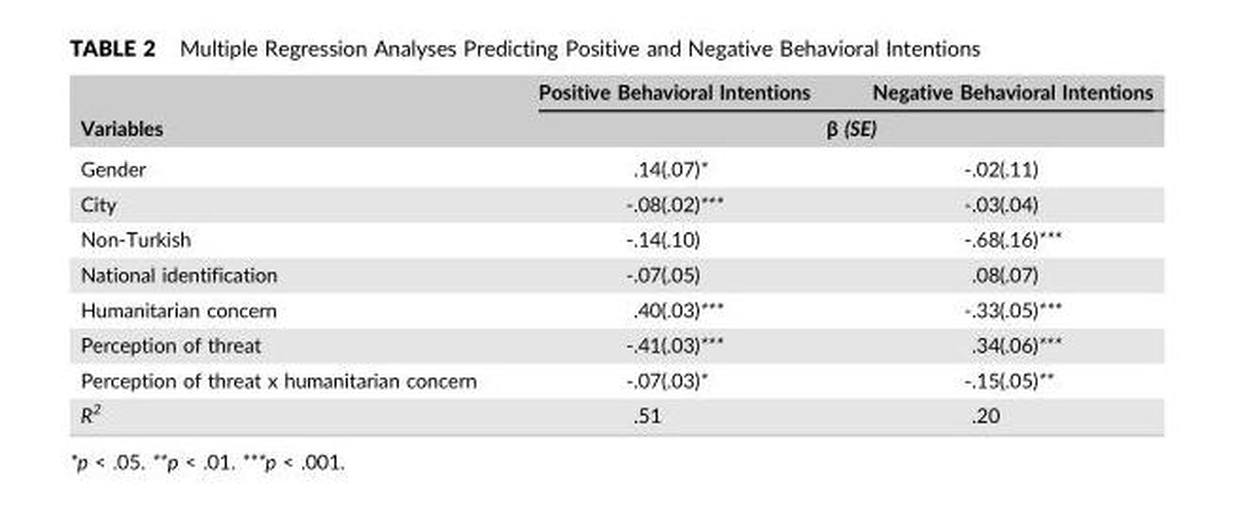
<table><thead><tr><td rowspan="2">Variables</td><td>Positive Behavioral Intentions</td><td>Negative Behavioral Intentions</td></tr><tr><td colspan="2">β (SE)</td></tr></thead><tbody><tr><td>Gender</td><td>.14(.07)*</td><td>‐.02(.11)</td></tr><tr><td>City</td><td>‐.08(.02)***</td><td>‐.03(.04)</td></tr><tr><td>Non‐Turkish</td><td>‐.14(.10)</td><td>‐.68(.16)***</td></tr><tr><td>National identification</td><td>‐.07(.05)</td><td>.08(.07)</td></tr><tr><td>Humanitarian concern</td><td>.40(.03)***</td><td>‐.33(.05)***</td></tr><tr><td>Perception of threat</td><td>‐.41(.03)***</td><td>.34(.06)***</td></tr><tr><td>Perception of threat x humanitarian concern</td><td>‐.07(.03)*</td><td>‐.15(.05)**</td></tr><tr><td>R<sup>2</sup></td><td>.51</td><td>.20</td></tr></tbody></table>